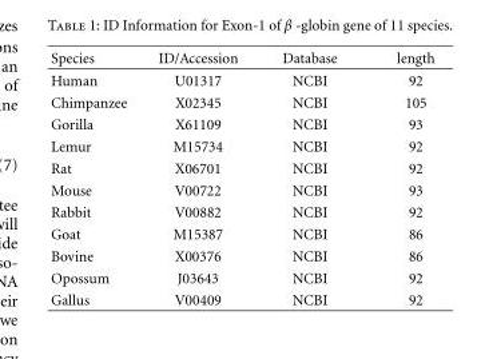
<table><thead><tr><td>Species</td><td>ID/Accession</td><td>Database</td><td>length</td></tr></thead><tbody><tr><td>Human</td><td>U01317</td><td>NCBI</td><td>92</td></tr><tr><td>Chimpanzee</td><td>X02345</td><td>NCBI</td><td>105</td></tr><tr><td>Gorilla</td><td>X61109</td><td>NCBI</td><td>93</td></tr><tr><td>Lemur</td><td>M15734</td><td>NCBI</td><td>92</td></tr><tr><td>Rat</td><td>X06701</td><td>NCBI</td><td>92</td></tr><tr><td>Mouse</td><td>V00722</td><td>NCBI</td><td>93</td></tr><tr><td>Rabbit</td><td>V00882</td><td>NCBI</td><td>92</td></tr><tr><td>Goat</td><td>M15387</td><td>NCBI</td><td>86</td></tr><tr><td>Bovine</td><td>X00376</td><td>NCBI</td><td>86</td></tr><tr><td>Opossum</td><td>J03643</td><td>NCBI</td><td>92</td></tr><tr><td>Gallus</td><td>V00409</td><td>NCBI</td><td>92</td></tr></tbody></table>